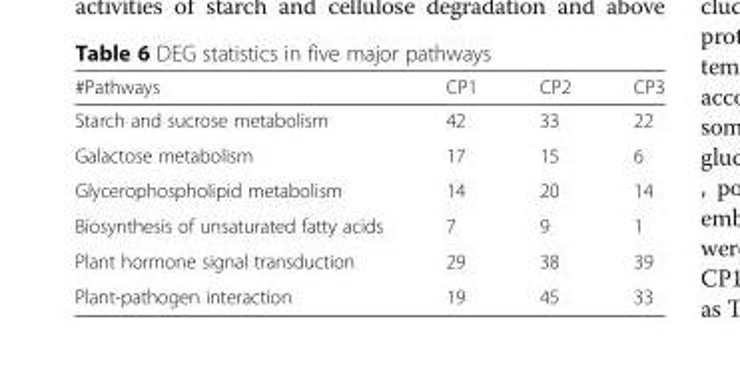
<table><thead><tr><td>#Pathways</td><td>CP1</td><td>CP2</td><td>CP3</td></tr></thead><tbody><tr><td>Starch and sucrose metabolism</td><td>42</td><td>33</td><td>22</td></tr><tr><td>Galactose metabolism</td><td>17</td><td>15</td><td>6</td></tr><tr><td>Glycerophospholipid metabolism</td><td>14</td><td>20</td><td>14</td></tr><tr><td>Biosynthesis of unsaturated fatty acids</td><td>7</td><td>9</td><td>1</td></tr><tr><td>Plant hormone signal transduction</td><td>29</td><td>38</td><td>39</td></tr><tr><td>Plant-pathogen interaction</td><td>19</td><td>45</td><td>33</td></tr></tbody></table>